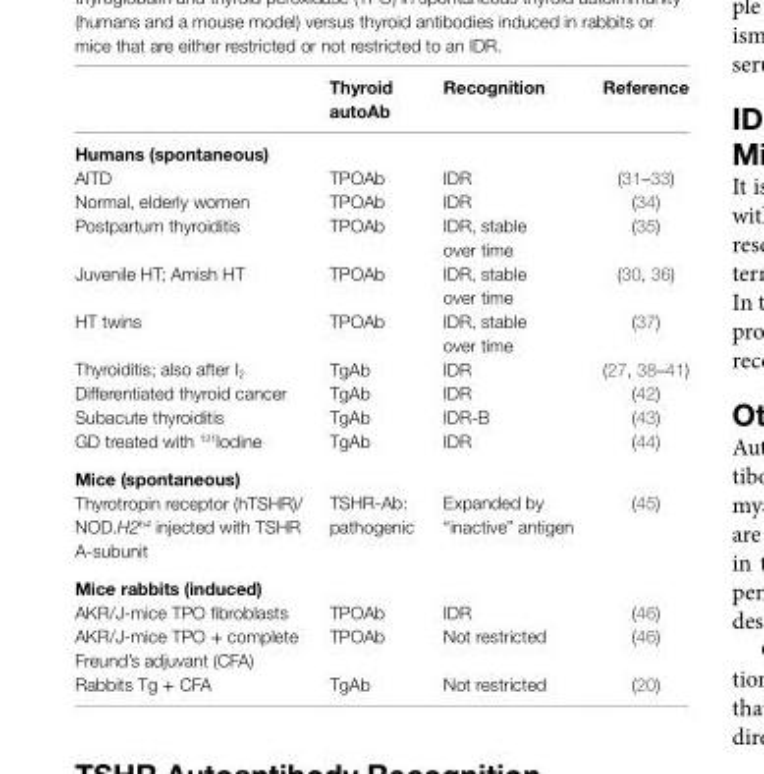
<table><thead><tr><td></td><td>Thyroid autoAb</td><td>Recognition</td><td>Reference</td></tr></thead><tbody><tr><td colspan="4">Humans (spontaneous)</td></tr><tr><td>AITD</td><td>TPOAb</td><td>IDR</td><td>(31–33)</td></tr><tr><td>Normal, elderly women</td><td>TPOAb</td><td>IDR</td><td>(34)</td></tr><tr><td>Postpartum thyroiditis</td><td>TPOAb</td><td>IDR, stable over time</td><td>(35)</td></tr><tr><td>Juvenile HT; Amish HT</td><td>TPOAb</td><td>IDR, stable over time</td><td>(30, 36)</td></tr><tr><td>HT twins</td><td>TPOAb</td><td>IDR, stable over time</td><td>(37)</td></tr><tr><td>Thyroiditis; also after I<sub>2</sub></td><td>TgAb</td><td>IDR</td><td>(27, 38–41)</td></tr><tr><td>Differentiated thyroid cancer</td><td>TgAb</td><td>IDR</td><td>(42)</td></tr><tr><td>Subacute thyroiditis</td><td>TgAb</td><td>IDR-B</td><td>(43)</td></tr><tr><td>GD treated with <sup>131</sup>Iodine</td><td>TgAb</td><td>IDR</td><td>(44)</td></tr><tr><td colspan="4">Mice (spontaneous)</td></tr><tr><td>Thyrotropin receptor (hTSHR)/ NOD.H2<sup>h4</sup> injected with TSHR A-subunit</td><td>TSHR-Ab: pathogenic</td><td>Expanded by “inactive” antigen</td><td>(45)</td></tr><tr><td colspan="4">Mice rabbits (induced)</td></tr><tr><td>AKR/J-mice TPO fibroblasts</td><td>TPOAb</td><td>IDR</td><td>(46)</td></tr><tr><td>AKR/J-mice TPO + complete Freund’s adjuvant (CFA)</td><td>TPOAb</td><td>Not restricted</td><td>(46)</td></tr><tr><td>Rabbits Tg + CFA</td><td>TgAb</td><td>Not restricted</td><td>(20)</td></tr></tbody></table>